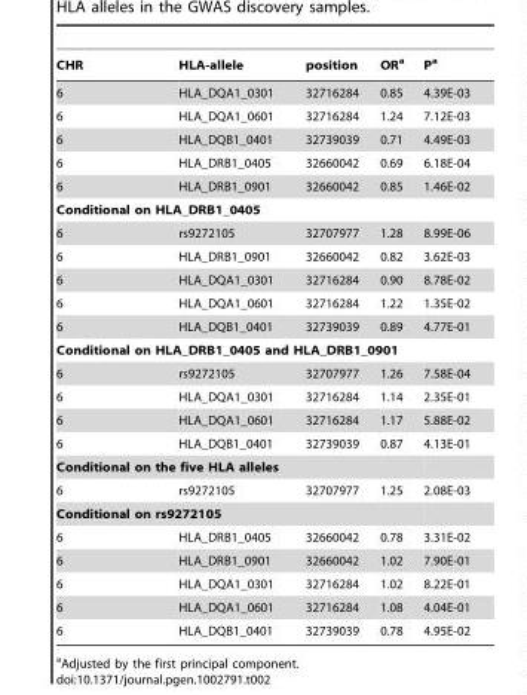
<table><thead><tr><td>CHR</td><td>HLA-allele</td><td>position</td><td>OR<sup>a</sup></td><td>P<sup>a</sup></td></tr></thead><tbody><tr><td>6</td><td>HLA_DQA1_0301</td><td>32716284</td><td>0.85</td><td>4.39E-03</td></tr><tr><td>6</td><td>HLA_DQA1_0601</td><td>32716284</td><td>1.24</td><td>7.12E-03</td></tr><tr><td>6</td><td>HLA_DQB1_0401</td><td>32739039</td><td>0.71</td><td>4.49E-03</td></tr><tr><td>6</td><td>HLA_DRB1_0405</td><td>32660042</td><td>0.69</td><td>6.18E-04</td></tr><tr><td>6</td><td>HLA_DRB1_0901</td><td>32660042</td><td>0.85</td><td>1.46E-02</td></tr><tr><td colspan="5">Conditional on HLA_DRB1_0405</td></tr><tr><td>6</td><td>rs9272105</td><td>32707977</td><td>1.28</td><td>8.99E-06</td></tr><tr><td>6</td><td>HLA_DRB1_0901</td><td>32660042</td><td>0.82</td><td>3.62E-03</td></tr><tr><td>6</td><td>HLA_DQA1_0301</td><td>32716284</td><td>0.90</td><td>8.78E-02</td></tr><tr><td>6</td><td>HLA_DQA1_0601</td><td>32716284</td><td>1.22</td><td>1.35E-02</td></tr><tr><td>6</td><td>HLA_DQB1_0401</td><td>32739039</td><td>0.89</td><td>4.77E-01</td></tr><tr><td colspan="5">Conditional on HLA_DRB1_0405 and HLA_DRB1_0901</td></tr><tr><td>6</td><td>rs9272105</td><td>32707977</td><td>1.26</td><td>7.58E-04</td></tr><tr><td>6</td><td>HLA_DQA1_0301</td><td>32716284</td><td>1.14</td><td>2.35E-01</td></tr><tr><td>6</td><td>HLA_DQA1_0601</td><td>32716284</td><td>1.17</td><td>5.88E-02</td></tr><tr><td>6</td><td>HLA_DQB1_0401</td><td>32739039</td><td>0.87</td><td>4.13E-01</td></tr><tr><td colspan="5">Conditional on the five HLA alleles</td></tr><tr><td>6</td><td>rs9272105</td><td>32707977</td><td>1.25</td><td>2.08E-03</td></tr><tr><td colspan="5">Conditional on rs9272105</td></tr><tr><td>6</td><td>HLA_DRB1_0405</td><td>32660042</td><td>0.78</td><td>3.31E-02</td></tr><tr><td>6</td><td>HLA_DRB1_0901</td><td>32660042</td><td>1.02</td><td>7.90E-01</td></tr><tr><td>6</td><td>HLA_DQA1_0301</td><td>32716284</td><td>1.02</td><td>8.22E-01</td></tr><tr><td>6</td><td>HLA_DQA1_0601</td><td>32716284</td><td>1.08</td><td>4.04E-01</td></tr><tr><td>6</td><td>HLA_DQB1_0401</td><td>32739039</td><td>0.78</td><td>4.95E-02</td></tr></tbody></table>